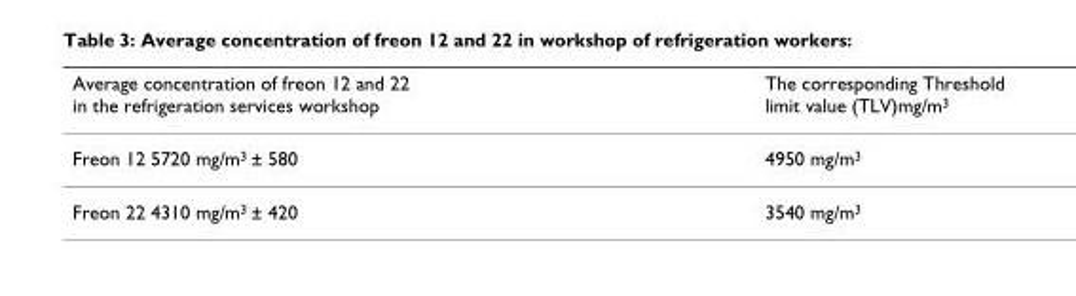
<table><thead><tr><td>Average concentration of freon 12 and 22 in the refrigeration services workshop</td><td>The corresponding Threshold limit value (TLV)mg/m<sup>3</sup></td></tr></thead><tbody><tr><td>Freon 12 5720 mg/m<sup>3</sup> ± 580</td><td>4950 mg/m<sup>3</sup></td></tr><tr><td>Freon 22 4310 mg/m<sup>3</sup> ± 420</td><td>3540 mg/m<sup>3</sup></td></tr></tbody></table>